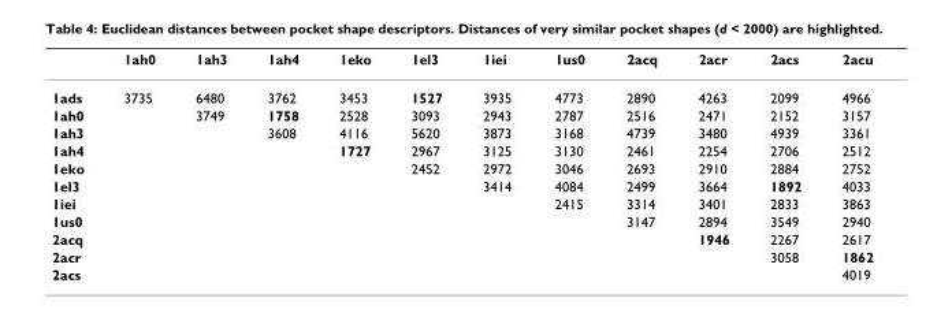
<table><thead><tr><td></td><td>1ah0</td><td>1ah3</td><td>1ah4</td><td>1eko</td><td>1el3</td><td>1iei</td><td>1us0</td><td>2acq</td><td>2acr</td><td>2acs</td><td>2acu</td></tr></thead><tbody><tr><td>1ads</td><td>3735</td><td>6480</td><td>3762</td><td>3453</td><td>1527</td><td>3935</td><td>4773</td><td>2890</td><td>4263</td><td>2099</td><td>4966</td></tr><tr><td>1ah0</td><td></td><td>3749</td><td>1758</td><td>2528</td><td>3093</td><td>2943</td><td>2787</td><td>2516</td><td>2471</td><td>2152</td><td>3157</td></tr><tr><td>1ah3</td><td></td><td></td><td>3608</td><td>4116</td><td>5620</td><td>3873</td><td>3168</td><td>4739</td><td>3480</td><td>4939</td><td>3361</td></tr><tr><td>1ah4</td><td></td><td></td><td></td><td>1727</td><td>2967</td><td>3125</td><td>3130</td><td>2461</td><td>2254</td><td>2706</td><td>2512</td></tr><tr><td>1eko</td><td></td><td></td><td></td><td></td><td>2452</td><td>2972</td><td>3046</td><td>2693</td><td>2910</td><td>2884</td><td>2752</td></tr><tr><td>1el3</td><td></td><td></td><td></td><td></td><td></td><td>3414</td><td>4084</td><td>2499</td><td>3664</td><td>1892</td><td>4033</td></tr><tr><td>1iei</td><td></td><td></td><td></td><td></td><td></td><td></td><td>2415</td><td>3314</td><td>3401</td><td>2833</td><td>3863</td></tr><tr><td>1us0</td><td></td><td></td><td></td><td></td><td></td><td></td><td></td><td>3147</td><td>2894</td><td>3549</td><td>2940</td></tr><tr><td>2acq</td><td></td><td></td><td></td><td></td><td></td><td></td><td></td><td></td><td>1946</td><td>2267</td><td>2617</td></tr><tr><td>2acr</td><td></td><td></td><td></td><td></td><td></td><td></td><td></td><td></td><td></td><td>3058</td><td>1862</td></tr><tr><td>2acs</td><td></td><td></td><td></td><td></td><td></td><td></td><td></td><td></td><td></td><td></td><td>4019</td></tr></tbody></table>